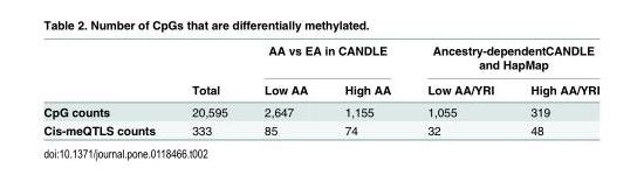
<table><thead><tr><td rowspan="2"></td><td rowspan="2">Total</td><td colspan="2">AA vs EA in CANDLE</td><td colspan="2">Ancestry-dependentCANDLE and HapMap</td></tr><tr><td>Low AA</td><td>High AA</td><td>Low AA/YRI</td><td>High AA/YRI</td></tr></thead><tbody><tr><td>CpG counts</td><td>20,595</td><td>2,647</td><td>1,155</td><td>1,055</td><td>319</td></tr><tr><td>Cis-meQTLS counts</td><td>333</td><td>85</td><td>74</td><td>32</td><td>48</td></tr></tbody></table>